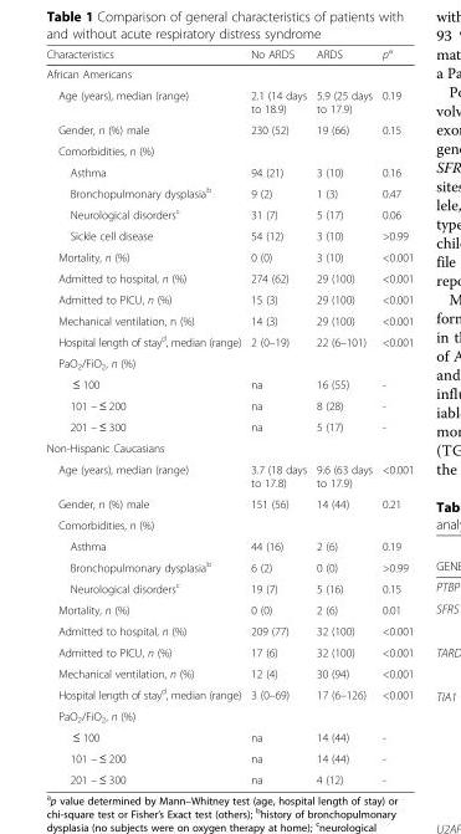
<table><thead><tr><td>Characteristics</td><td>No ARDS</td><td>ARDS</td><td>p<sup>a</sup></td></tr></thead><tbody><tr><td colspan="4">African Americans</td></tr><tr><td>Age (years), median (range)</td><td>2.1 (14 days to 18.9)</td><td>5.9 (25 days to 17.9)</td><td>0.19</td></tr><tr><td>Gender, n (%) male</td><td>230 (52)</td><td>19 (66)</td><td>0.15</td></tr><tr><td colspan="4">Comorbidities, n (%)</td></tr><tr><td>Asthma</td><td>94 (21)</td><td>3 (10)</td><td>0.16</td></tr><tr><td>Bronchopulmonary dysplasia<sup>b</sup></td><td>9 (2)</td><td>1 (3)</td><td>0.47</td></tr><tr><td>Neurological disorders<sup>c</sup></td><td>31 (7)</td><td>5 (17)</td><td>0.06</td></tr><tr><td>Sickle cell disease</td><td>54 (12)</td><td>3 (10)</td><td>&gt;0.99</td></tr><tr><td>Mortality, n (%)</td><td>0 (0)</td><td>3 (10)</td><td>&lt;0.001</td></tr><tr><td>Admitted to hospital, n (%)</td><td>274 (62)</td><td>29 (100)</td><td>&lt;0.001</td></tr><tr><td>Admitted to PICU, n (%)</td><td>15 (3)</td><td>29 (100)</td><td>&lt;0.001</td></tr><tr><td>Mechanical ventilation, n (%)</td><td>14 (3)</td><td>29 (100)</td><td>&lt;0.001</td></tr><tr><td>Hospital length of stay<sup>d</sup>, median (range)</td><td>2 (0–19)</td><td>22 (6–101)</td><td>&lt;0.001</td></tr><tr><td colspan="4">PaO<sub>2</sub>/FiO<sub>2</sub>, n (%)</td></tr><tr><td>≤ 100</td><td>na</td><td>16 (55)</td><td>-</td></tr><tr><td>101 – ≤ 200</td><td>na</td><td>8 (28)</td><td>-</td></tr><tr><td>201 – ≤ 300</td><td>na</td><td>5 (17)</td><td>-</td></tr><tr><td colspan="4">Non-Hispanic Caucasians</td></tr><tr><td>Age (years), median (range)</td><td>3.7 (18 days to 17.8)</td><td>9.6 (63 days to 17.9)</td><td>&lt;0.001</td></tr><tr><td>Gender, n (%) male</td><td>151 (56)</td><td>14 (44)</td><td>0.21</td></tr><tr><td colspan="4">Comorbidities, n (%)</td></tr><tr><td>Asthma</td><td>44 (16)</td><td>2 (6)</td><td>0.19</td></tr><tr><td>Bronchopulmonary dysplasia<sup>b</sup></td><td>6 (2)</td><td>0 (0)</td><td>&gt;0.99</td></tr><tr><td>Neurological disorders<sup>c</sup></td><td>19 (7)</td><td>5 (16)</td><td>0.15</td></tr><tr><td>Mortality, n (%)</td><td>0 (0)</td><td>2 (6)</td><td>0.01</td></tr><tr><td>Admitted to hospital, n (%)</td><td>209 (77)</td><td>32 (100)</td><td>&lt;0.001</td></tr><tr><td>Admitted to PICU, n (%)</td><td>17 (6)</td><td>32 (100)</td><td>&lt;0.001</td></tr><tr><td>Mechanical ventilation, n (%)</td><td>12 (4)</td><td>30 (94)</td><td>&lt;0.001</td></tr><tr><td>Hospital length of stay<sup>d</sup>, median (range)</td><td>3 (0–69)</td><td>17 (6–126)</td><td>&lt;0.001</td></tr><tr><td colspan="4">PaO<sub>2</sub>/FiO<sub>2</sub>, n (%)</td></tr><tr><td>≤ 100</td><td>na</td><td>14 (44)</td><td>-</td></tr><tr><td>101 – ≤ 200</td><td>na</td><td>14 (44)</td><td>-</td></tr><tr><td>201 – ≤ 300</td><td>na</td><td>4 (12)</td><td>-</td></tr></tbody></table>